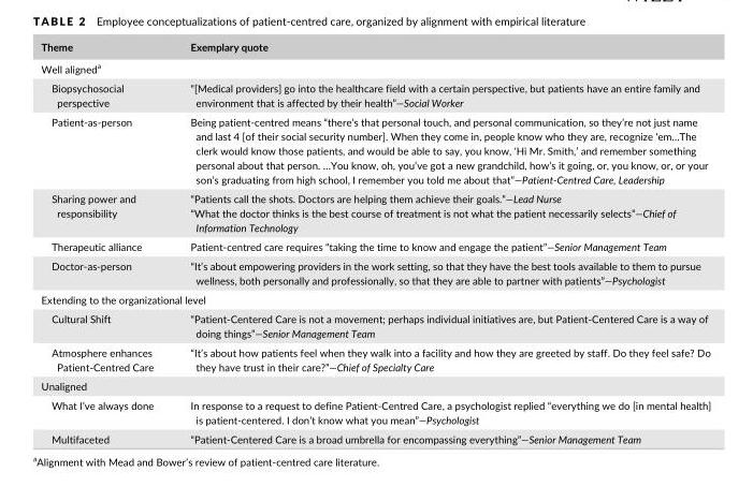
<table><thead><tr><td>Theme</td><td>Exemplary quote</td></tr></thead><tbody><tr><td colspan="2">Well aligned<sup>a</sup></td></tr><tr><td>Biopsychosocial perspective</td><td>“[Medical providers] go into the healthcare field with a certain perspective, but patients have an entire family and environment that is affected by their health”—Social Worker</td></tr><tr><td>Patient- as- person</td><td>Being patient- centred means “there’s that personal touch, and personal communication, so they’re not just name and last 4 [of their social security number]. When they come in, people know who they are, recognize ‘em…The clerk would know those patients, and would be able to say, you know, ‘Hi Mr. Smith,’ and remember something personal about that person. …You know, oh, you’ve got a new grandchild, how’s it going, or, you know, or, or your son’s graduating from high school, I remember you told me about that”—Patient-Centred Care, Leadership</td></tr><tr><td>Sharing power and responsibility</td><td>“Patients call the shots. Doctors are helping them achieve their goals.”—Lead Nurse “What the doctor thinks is the best course of treatment is not what the patient necessarily selects”—Chief of Information Technology</td></tr><tr><td>Therapeutic alliance</td><td>Patient- centred care requires “taking the time to know and engage the patient”—Senior Management Team</td></tr><tr><td>Doctor- as- person</td><td>“It’s about empowering providers in the work setting, so that they have the best tools available to them to pursue wellness, both personally and professionally, so that they are able to partner with patients”—Psychologist</td></tr><tr><td colspan="2">Extending to the organizational level</td></tr><tr><td>Cultural Shift</td><td>“Patient- Centered Care is not a movement; perhaps individual initiatives are, but Patient- Centered Care is a way of doing things”—Senior Management Team</td></tr><tr><td>Atmosphere enhances Patient- Centred Care</td><td>“It’s about how patients feel when they walk into a facility and how they are greeted by staff. Do they feel safe? Do they have trust in their care?”—Chief of Specialty Care</td></tr><tr><td colspan="2">Unaligned</td></tr><tr><td>What I’ve always done</td><td>In response to a request to define Patient- Centred Care, a psychologist replied “everything we do [in mental health] is patient- centered. I don’t know what you mean”—Psychologist</td></tr><tr><td>Multifaceted</td><td>“Patient- Centered Care is a broad umbrella for encompassing everything”—Senior Management Team</td></tr></tbody></table>